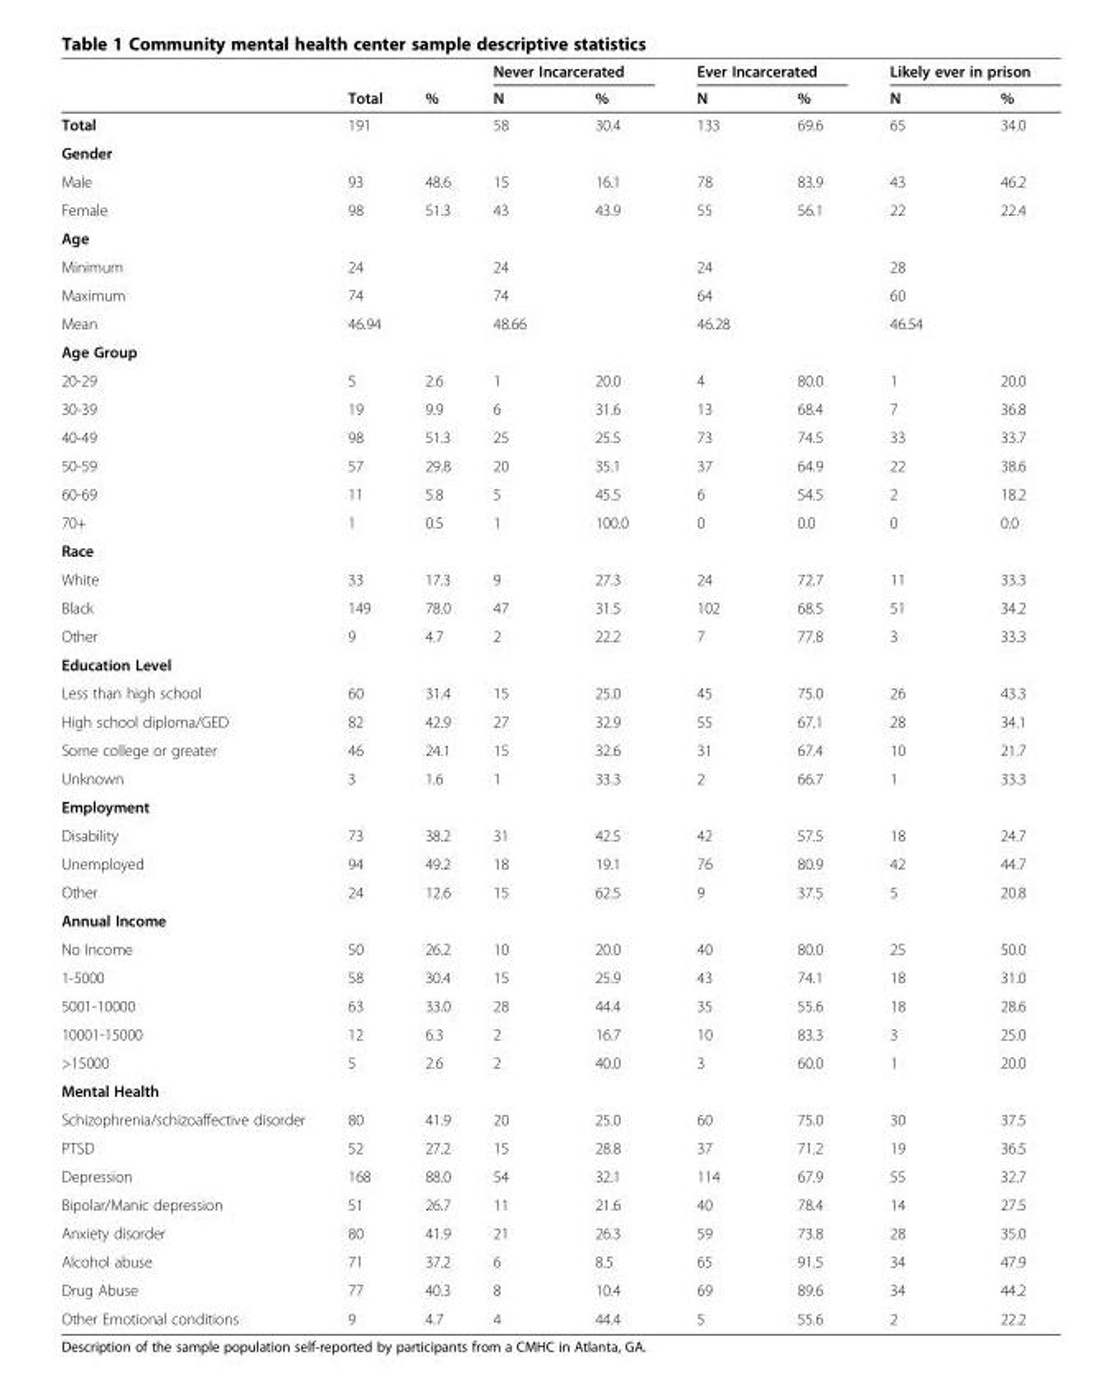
<table><thead><tr><td rowspan="2"></td><td rowspan="2">Total</td><td rowspan="2">%</td><td colspan="2">Never Incarcerated</td><td colspan="2">Ever Incarcerated</td><td colspan="2">Likely ever in prison</td></tr><tr><td>N</td><td>%</td><td>N</td><td>%</td><td>N</td><td>%</td></tr></thead><tbody><tr><td>Total</td><td>191</td><td></td><td>58</td><td>30.4</td><td>133</td><td>69.6</td><td>65</td><td>34.0</td></tr><tr><td colspan="9">Gender</td></tr><tr><td>Male</td><td>93</td><td>48.6</td><td>15</td><td>16.1</td><td>78</td><td>83.9</td><td>43</td><td>46.2</td></tr><tr><td>Female</td><td>98</td><td>51.3</td><td>43</td><td>43.9</td><td>55</td><td>56.1</td><td>22</td><td>22.4</td></tr><tr><td colspan="9">Age</td></tr><tr><td>Minimum</td><td>24</td><td></td><td>24</td><td></td><td>24</td><td></td><td>28</td><td></td></tr><tr><td>Maximum</td><td>74</td><td></td><td>74</td><td></td><td>64</td><td></td><td>60</td><td></td></tr><tr><td>Mean</td><td>46.94</td><td></td><td>48.66</td><td></td><td>46.28</td><td></td><td>46.54</td><td></td></tr><tr><td colspan="9">Age Group</td></tr><tr><td>20-29</td><td>5</td><td>2.6</td><td>1</td><td>20.0</td><td>4</td><td>80.0</td><td>1</td><td>20.0</td></tr><tr><td>30-39</td><td>19</td><td>9.9</td><td>6</td><td>31.6</td><td>13</td><td>68.4</td><td>7</td><td>36.8</td></tr><tr><td>40-49</td><td>98</td><td>51.3</td><td>25</td><td>25.5</td><td>73</td><td>74.5</td><td>33</td><td>33.7</td></tr><tr><td>50-59</td><td>57</td><td>29.8</td><td>20</td><td>35.1</td><td>37</td><td>64.9</td><td>22</td><td>38.6</td></tr><tr><td>60-69</td><td>11</td><td>5.8</td><td>5</td><td>45.5</td><td>6</td><td>54.5</td><td>2</td><td>18.2</td></tr><tr><td>70+</td><td>1</td><td>0.5</td><td>1</td><td>100.0</td><td>0</td><td>0.0</td><td>0</td><td>0.0</td></tr><tr><td colspan="9">Race</td></tr><tr><td>White</td><td>33</td><td>17.3</td><td>9</td><td>27.3</td><td>24</td><td>72.7</td><td>11</td><td>33.3</td></tr><tr><td>Black</td><td>149</td><td>78.0</td><td>47</td><td>31.5</td><td>102</td><td>68.5</td><td>51</td><td>34.2</td></tr><tr><td>Other</td><td>9</td><td>4.7</td><td>2</td><td>22.2</td><td>7</td><td>77.8</td><td>3</td><td>33.3</td></tr><tr><td colspan="9">Education Level</td></tr><tr><td>Less than high school</td><td>60</td><td>31.4</td><td>15</td><td>25.0</td><td>45</td><td>75.0</td><td>26</td><td>43.3</td></tr><tr><td>High school diploma/GED</td><td>82</td><td>42.9</td><td>27</td><td>32.9</td><td>55</td><td>67.1</td><td>28</td><td>34.1</td></tr><tr><td>Some college or greater</td><td>46</td><td>24.1</td><td>15</td><td>32.6</td><td>31</td><td>67.4</td><td>10</td><td>21.7</td></tr><tr><td>Unknown</td><td>3</td><td>1.6</td><td>1</td><td>33.3</td><td>2</td><td>66.7</td><td>1</td><td>33.3</td></tr><tr><td colspan="9">Employment</td></tr><tr><td>Disability</td><td>73</td><td>38.2</td><td>31</td><td>42.5</td><td>42</td><td>57.5</td><td>18</td><td>24.7</td></tr><tr><td>Unemployed</td><td>94</td><td>49.2</td><td>18</td><td>19.1</td><td>76</td><td>80.9</td><td>42</td><td>44.7</td></tr><tr><td>Other</td><td>24</td><td>12.6</td><td>15</td><td>62.5</td><td>9</td><td>37.5</td><td>5</td><td>20.8</td></tr><tr><td colspan="9">Annual Income</td></tr><tr><td>No Income</td><td>50</td><td>26.2</td><td>10</td><td>20.0</td><td>40</td><td>80.0</td><td>25</td><td>50.0</td></tr><tr><td>1-5000</td><td>58</td><td>30.4</td><td>15</td><td>25.9</td><td>43</td><td>74.1</td><td>18</td><td>31.0</td></tr><tr><td>5001-10000</td><td>63</td><td>33.0</td><td>28</td><td>44.4</td><td>35</td><td>55.6</td><td>18</td><td>28.6</td></tr><tr><td>10001-15000</td><td>12</td><td>6.3</td><td>2</td><td>16.7</td><td>10</td><td>83.3</td><td>3</td><td>25.0</td></tr><tr><td>&gt;15000</td><td>5</td><td>2.6</td><td>2</td><td>40.0</td><td>3</td><td>60.0</td><td>1</td><td>20.0</td></tr><tr><td colspan="9">Mental Health</td></tr><tr><td>Schizophrenia/schizoaffective disorder</td><td>80</td><td>41.9</td><td>20</td><td>25.0</td><td>60</td><td>75.0</td><td>30</td><td>37.5</td></tr><tr><td>PTSD</td><td>52</td><td>27.2</td><td>15</td><td>28.8</td><td>37</td><td>71.2</td><td>19</td><td>36.5</td></tr><tr><td>Depression</td><td>168</td><td>88.0</td><td>54</td><td>32.1</td><td>114</td><td>67.9</td><td>55</td><td>32.7</td></tr><tr><td>Bipolar/Manic depression</td><td>51</td><td>26.7</td><td>11</td><td>21.6</td><td>40</td><td>78.4</td><td>14</td><td>27.5</td></tr><tr><td>Anxiety disorder</td><td>80</td><td>41.9</td><td>21</td><td>26.3</td><td>59</td><td>73.8</td><td>28</td><td>35.0</td></tr><tr><td>Alcohol abuse</td><td>71</td><td>37.2</td><td>6</td><td>8.5</td><td>65</td><td>91.5</td><td>34</td><td>47.9</td></tr><tr><td>Drug Abuse</td><td>77</td><td>40.3</td><td>8</td><td>10.4</td><td>69</td><td>89.6</td><td>34</td><td>44.2</td></tr><tr><td>Other Emotional conditions</td><td>9</td><td>4.7</td><td>4</td><td>44.4</td><td>5</td><td>55.6</td><td>2</td><td>22.2</td></tr></tbody></table>